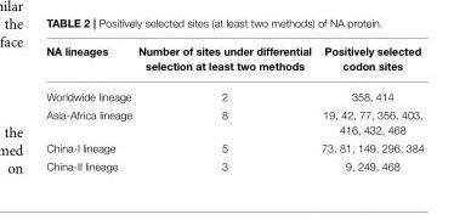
<table><thead><tr><td>NA lineages</td><td>Number of sites under differential selection at least two methods</td><td>Positively selected codon sites</td></tr></thead><tbody><tr><td>Worldwide lineage</td><td>2</td><td>358, 414</td></tr><tr><td>Asia-Africa lineage</td><td>8</td><td>19, 42, 77, 356, 403, 416, 432, 468</td></tr><tr><td>China-I lineage</td><td>5</td><td>73, 81, 149, 296, 384</td></tr><tr><td>China-II lineage</td><td>3</td><td>9, 249, 468</td></tr></tbody></table>